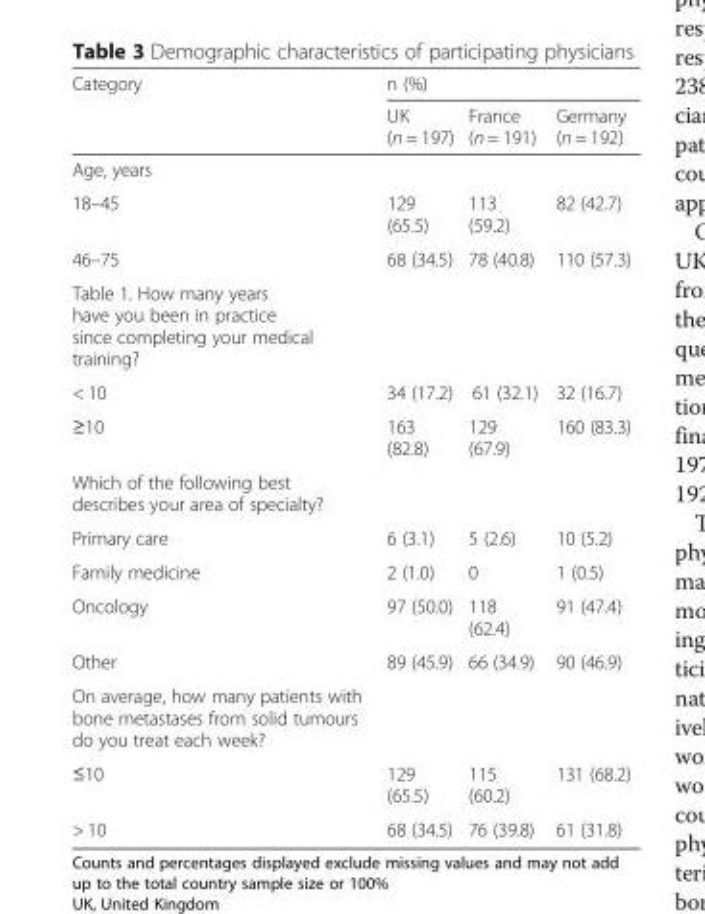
<table><thead><tr><td rowspan="2">Category</td><td colspan="3">n (%)</td></tr><tr><td>UK (n = 197)</td><td>France (n = 191)</td><td>Germany (n = 192)</td></tr></thead><tbody><tr><td colspan="4">Age, years</td></tr><tr><td>18–45</td><td>129 (65.5)</td><td>113 (59.2)</td><td>82 (42.7)</td></tr><tr><td>46–75</td><td>68 (34.5)</td><td>78 (40.8)</td><td>110 (57.3)</td></tr><tr><td colspan="4">Table 1. How many years have you been in practice since completing your medical training?</td></tr><tr><td>&lt; 10</td><td>34 (17.2)</td><td>61 (32.1)</td><td>32 (16.7)</td></tr><tr><td>≥10</td><td>163 (82.8)</td><td>129 (67.9)</td><td>160 (83.3)</td></tr><tr><td colspan="4">Which of the following best describes your area of specialty?</td></tr><tr><td>Primary care</td><td>6 (3.1)</td><td>5 (2.6)</td><td>10 (5.2)</td></tr><tr><td>Family medicine</td><td>2 (1.0)</td><td>0</td><td>1 (0.5)</td></tr><tr><td>Oncology</td><td>97 (50.0)</td><td>118 (62.4)</td><td>91 (47.4)</td></tr><tr><td>Other</td><td>89 (45.9)</td><td>66 (34.9)</td><td>90 (46.9)</td></tr><tr><td colspan="4">On average, how many patients with bone metastases from solid tumours do you treat each week?</td></tr><tr><td>≤10</td><td>129 (65.5)</td><td>115 (60.2)</td><td>131 (68.2)</td></tr><tr><td>&gt; 10</td><td>68 (34.5)</td><td>76 (39.8)</td><td>61 (31.8)</td></tr></tbody></table>